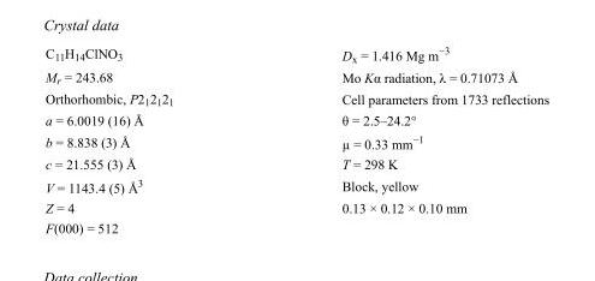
<table><tbody><tr><td>C<sub>11</sub>H<sub>14</sub>ClNO<sub>3</sub></td><td>D<sub>x</sub> = 1.416 Mg m<sup>−3</sup></td></tr><tr><td>M<sub>r</sub> = 243.68</td><td>Mo Kα radiation, λ = 0.71073 Å</td></tr><tr><td>Orthorhombic, P2<sub>1</sub>2<sub>1</sub>2<sub>1</sub></td><td>Cell parameters from 1733 reflections</td></tr><tr><td>a = 6.0019 (16) Å</td><td>θ = 2.5–24.2°</td></tr><tr><td>b = 8.838 (3) Å</td><td>µ = 0.33 mm<sup>−1</sup></td></tr><tr><td>c = 21.555 (3) Å</td><td>T = 298 K</td></tr><tr><td>V = 1143.4 (5) Å<sup>3</sup></td><td>Block, yellow</td></tr><tr><td>Z = 4</td><td>0.13 × 0.12 × 0.10 mm</td></tr><tr><td>F(000) = 512</td><td></td></tr></tbody></table>